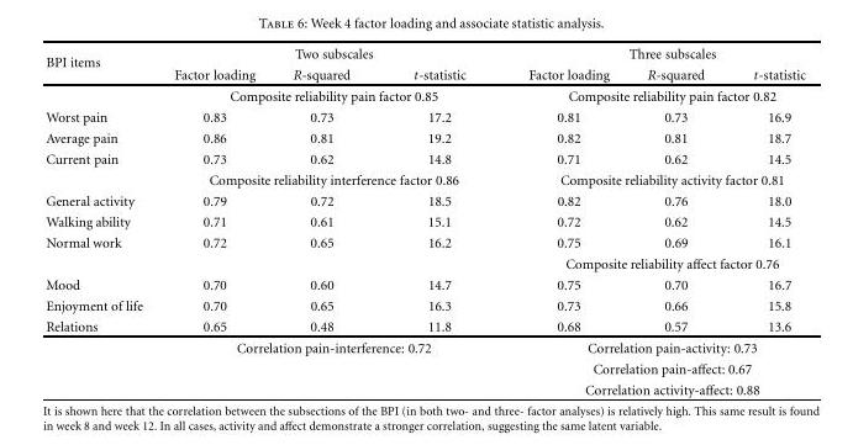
<table><thead><tr><td rowspan="2">BPI items</td><td colspan="3">Two subscales</td><td colspan="3">Three subscales</td></tr><tr><td>Factor loading</td><td>R-squared</td><td>t-statistic</td><td>Factor loading</td><td>R-squared</td><td>t-statistic</td></tr></thead><tbody><tr><td></td><td colspan="3">Composite reliability pain factor 0.85</td><td colspan="3">Composite reliability pain factor 0.82</td></tr><tr><td>Worst pain</td><td>0.83</td><td>0.73</td><td>17.2</td><td>0.81</td><td>0.73</td><td>16.9</td></tr><tr><td>Average pain</td><td>0.86</td><td>0.81</td><td>19.2</td><td>0.82</td><td>0.81</td><td>18.7</td></tr><tr><td rowspan="2">Current pain</td><td>0.73</td><td>0.62</td><td>14.8</td><td>0.71</td><td>0.62</td><td>14.5</td></tr><tr><td colspan="3">Composite reliability interference factor 0.86</td><td colspan="3">Composite reliability activity factor 0.81</td></tr><tr><td>General activity</td><td>0.79</td><td>0.72</td><td>18.5</td><td>0.82</td><td>0.76</td><td>18.0</td></tr><tr><td>Walking ability</td><td>0.71</td><td>0.61</td><td>15.1</td><td>0.72</td><td>0.62</td><td>14.5</td></tr><tr><td rowspan="2">Normal work</td><td>0.72</td><td>0.65</td><td>16.2</td><td>0.75</td><td>0.69</td><td>16.1</td></tr><tr><td></td><td></td><td></td><td colspan="3">Composite reliability affect factor 0.76</td></tr><tr><td>Mood</td><td>0.70</td><td>0.60</td><td>14.7</td><td>0.75</td><td>0.70</td><td>16.7</td></tr><tr><td>Enjoyment of life</td><td>0.70</td><td>0.65</td><td>16.3</td><td>0.73</td><td>0.66</td><td>15.8</td></tr><tr><td rowspan="4">Relations</td><td>0.65</td><td>0.48</td><td>11.8</td><td>0.68</td><td>0.57</td><td>13.6</td></tr><tr><td colspan="3">Correlation pain-interference: 0.72</td><td colspan="3">Correlation pain-activity: 0.73</td></tr><tr><td></td><td></td><td></td><td colspan="3">Correlation pain-affect: 0.67</td></tr><tr><td></td><td></td><td></td><td colspan="3">Correlation activity-affect: 0.88</td></tr></tbody></table>